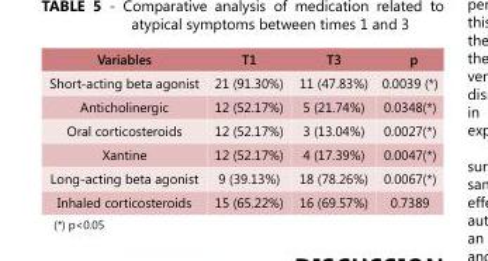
<table><thead><tr><td>Variables</td><td>T1</td><td>T3</td><td>p</td></tr></thead><tbody><tr><td>Short-acting beta agonist</td><td>21 (91.30%)</td><td>11 (47.83%)</td><td>0.0039 (*)</td></tr><tr><td>Anticholinergic</td><td>12 (52.17%)</td><td>5 (21.74%)</td><td>0.0348(*)</td></tr><tr><td>Oral corticosteroids</td><td>12 (52.17%)</td><td>3 (13.04%)</td><td>0.0027(*)</td></tr><tr><td>Xantine</td><td>12 (52.17%)</td><td>4 (17.39%)</td><td>0.0047(*)</td></tr><tr><td>Long-acting beta agonist</td><td>9 (39.13%)</td><td>18 (78.26%)</td><td>0.0067(*)</td></tr><tr><td>Inhaled corticosteroids</td><td>15 (65.22%)</td><td>16 (69.57%)</td><td>0.7389</td></tr></tbody></table>